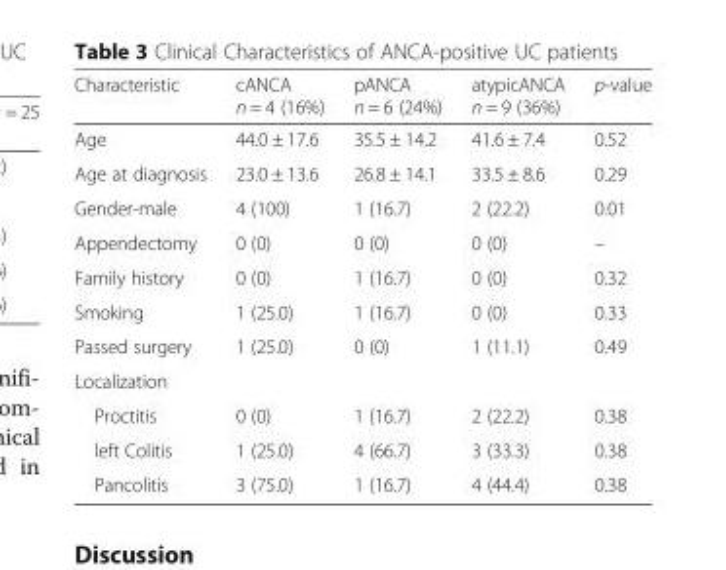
<table><thead><tr><td>Characteristic</td><td>cANCA n = 4 (16%)</td><td>pANCA n = 6 (24%)</td><td>atypicANCA n = 9 (36%)</td><td>p-value</td></tr></thead><tbody><tr><td>Age</td><td>44.0 ± 17.6</td><td>35.5 ± 14.2</td><td>41.6 ± 7.4</td><td>0.52</td></tr><tr><td>Age at diagnosis</td><td>23.0 ± 13.6</td><td>26.8 ± 14.1</td><td>33.5 ± 8.6</td><td>0.29</td></tr><tr><td>Gender-male</td><td>4 (100)</td><td>1 (16.7)</td><td>2 (22.2)</td><td>0.01</td></tr><tr><td>Appendectomy</td><td>0 (0)</td><td>0 (0)</td><td>0 (0)</td><td>–</td></tr><tr><td>Family history</td><td>0 (0)</td><td>1 (16.7)</td><td>0 (0)</td><td>0.32</td></tr><tr><td>Smoking</td><td>1 (25.0)</td><td>1 (16.7)</td><td>0 (0)</td><td>0.33</td></tr><tr><td>Passed surgery</td><td>1 (25.0)</td><td>0 (0)</td><td>1 (11.1)</td><td>0.49</td></tr><tr><td colspan="5">Localization</td></tr><tr><td>Proctitis</td><td>0 (0)</td><td>1 (16.7)</td><td>2 (22.2)</td><td>0.38</td></tr><tr><td>left Colitis</td><td>1 (25.0)</td><td>4 (66.7)</td><td>3 (33.3)</td><td>0.38</td></tr><tr><td>Pancolitis</td><td>3 (75.0)</td><td>1 (16.7)</td><td>4 (44.4)</td><td>0.38</td></tr></tbody></table>